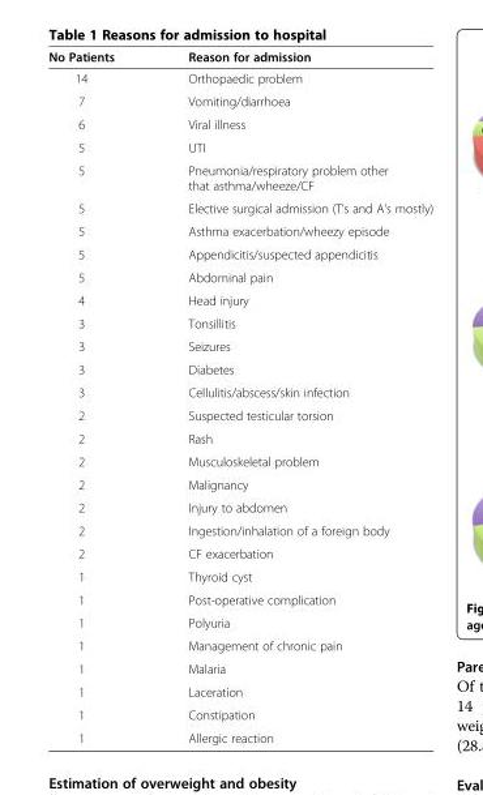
<table><thead><tr><td>No Patients</td><td>Reason for admission</td></tr></thead><tbody><tr><td>14</td><td>Orthopaedic problem</td></tr><tr><td>7</td><td>Vomiting/diarrhoea</td></tr><tr><td>6</td><td>Viral illness</td></tr><tr><td>5</td><td>UTI</td></tr><tr><td>5</td><td>Pneumonia/respiratory problem other that asthma/wheeze/CF</td></tr><tr><td>5</td><td>Elective surgical admission (T’s and A’s mostly)</td></tr><tr><td>5</td><td>Asthma exacerbation/wheezy episode</td></tr><tr><td>5</td><td>Appendicitis/suspected appendicitis</td></tr><tr><td>5</td><td>Abdominal pain</td></tr><tr><td>4</td><td>Head injury</td></tr><tr><td>3</td><td>Tonsillitis</td></tr><tr><td>3</td><td>Seizures</td></tr><tr><td>3</td><td>Diabetes</td></tr><tr><td>3</td><td>Cellulitis/abscess/skin infection</td></tr><tr><td>2</td><td>Suspected testicular torsion</td></tr><tr><td>2</td><td>Rash</td></tr><tr><td>2</td><td>Musculoskeletal problem</td></tr><tr><td>2</td><td>Malignancy</td></tr><tr><td>2</td><td>Injury to abdomen</td></tr><tr><td>2</td><td>Ingestion/inhalation of a foreign body</td></tr><tr><td>2</td><td>CF exacerbation</td></tr><tr><td>1</td><td>Thyroid cyst</td></tr><tr><td>1</td><td>Post-operative complication</td></tr><tr><td>1</td><td>Polyuria</td></tr><tr><td>1</td><td>Management of chronic pain</td></tr><tr><td>1</td><td>Malaria</td></tr><tr><td>1</td><td>Laceration</td></tr><tr><td>1</td><td>Constipation</td></tr><tr><td>1</td><td>Allergic reaction</td></tr></tbody></table>